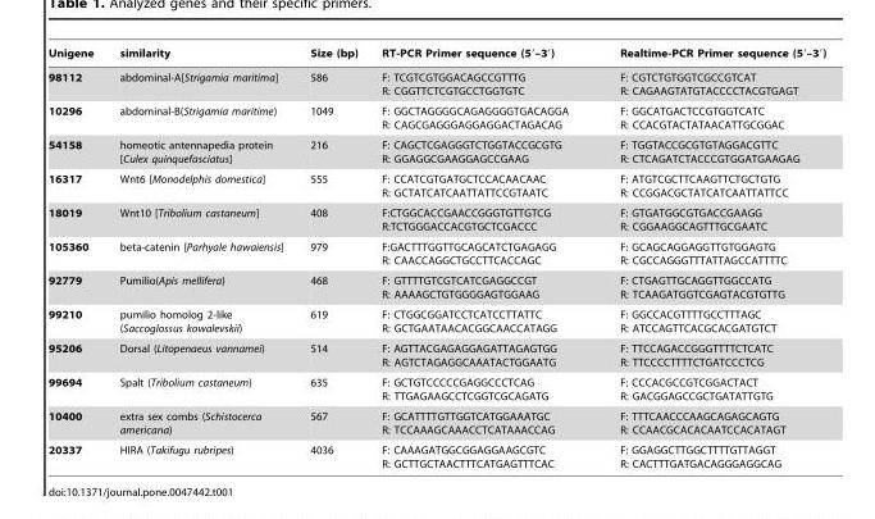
<table><thead><tr><td>Unigene</td><td>similarity</td><td>Size (bp)</td><td>RT-PCR Primer sequence (5′–3′)</td><td>Realtime-PCR Primer sequence (5′–3′)</td></tr></thead><tbody><tr><td>98112</td><td>abdominal-A[Strigamia maritima]</td><td>586</td><td>F: TCGTCGTGGACAGCCGTTTG R: CGGTTCTCGTGCCTGGTGTC</td><td>F: CGTCTGTGGTCGCCGTCAT R: CAGAAGTATGTACCCCTACGTGAGT</td></tr><tr><td>10296</td><td>abdominal-B(Strigamia maritime)</td><td>1049</td><td>F: GGCTAGGGGCAGAGGGGTGACAGGA R: CAGCGAGGGAGGAGGACTAGACAG</td><td>F: GGCATGACTCCGTGGTCATC R: CCACGTACTATAACATTGCGGAC</td></tr><tr><td>54158</td><td>homeotic antennapedia protein [Culex quinquefasciatus]</td><td>216</td><td>F: CAGCTCGAGGGTCTGGTACCGCGTG R: GGAGGCGAAGGAGCCGAAG</td><td>F: TGGTACCGCGTGTAGGACGTTC R: CTCAGATCTACCCGTGGATGAAGAG</td></tr><tr><td>16317</td><td>Wnt6 [Monodelphis domestica]</td><td>555</td><td>F: CCATCGTGATGCTCCACAACAAC R: GCTATCATCAATTATTCCGTAATC</td><td>F: ATGTCGCTTCAAGTTCTGCTGTG R: CCGGACGCTATCATCAATTATTCC</td></tr><tr><td>18019</td><td>Wnt10 [Tribolium castaneum]</td><td>408</td><td>F:CTGGCACCGAACCGGGTGTTGTCG R:TCTGGGACCACGTGCTCGACCC</td><td>F: GTGATGGCGTGACCGAAGG R: CGGAAGGCAGTTTGCGAATC</td></tr><tr><td>105360</td><td>beta-catenin [Parhyale hawaiensis]</td><td>979</td><td>F:GACTTTGGTTGCAGCATCTGAGAGG R: CAACCAGGCTGCCTTCACCAGC</td><td>F: GCAGCAGGAGGTTGTGGAGTG R: CGCCAGGGTTTATTAGCCATTTTC</td></tr><tr><td>92779</td><td>Pumilio(Apis mellifera)</td><td>468</td><td>F: GTTTTGTCGTCATCGAGGCCGT R: AAAAGCTGTGGGGAGTGGAAG</td><td>F: CTGAGTTGCAGGTTGGCCATG R: TCAAGATGGTCGAGTACGTGTTG</td></tr><tr><td>99210</td><td>pumilio homolog 2-like (Saccoglossus kowalevskii)</td><td>619</td><td>F: CTGGCGGATCCTCATCCTTATTC R: GCTGAATAACACGGCAACCATAGG</td><td>F: GGCCACGTTTTGCCTTTAGC R: ATCCAGTTCACGCACGATGTCT</td></tr><tr><td>95206</td><td>Dorsal (Litopenaeus vannamei)</td><td>514</td><td>F: AGTTACGAGAGGAGATTAGAGTGG R: AGTCTAGAGGCAAATACTGGAATG</td><td>F: TTCCAGACCGGGTTTTCTCATC R: TTCCCCTTTTCTGATCCCTCG</td></tr><tr><td>99694</td><td>Spalt (Tribolium castaneum)</td><td>635</td><td>F: GCTGTCCCCCGAGGCCCTCAG R: TTGAGAAGCCTCGGTCGCAGATG</td><td>F: CCCACGCCGTCGGACTACT R: GACGGAGCCGCTGATATTGTG</td></tr><tr><td>10400</td><td>extra sex combs (Schistocerca americana)</td><td>567</td><td>F: GCATTTTGTTGGTCATGGAAATGC R: TCCAAAGCAAACCTCATAAACCAG</td><td>F: TTTCAACCCAAGCAGAGCAGTG R: CCAACGCACACAATCCACATAGT</td></tr><tr><td>20337</td><td>HIRA (Takifugu rubripes)</td><td>4036</td><td>F: CAAAGATGGCGGAGGAAGCGTC R: GCTTGCTAACTTTCATGAGTTTCAC</td><td>F: GGAGGCTTGGCTTTTGTTAGGT R: CACTTTGATGACAGGGAGGCAG</td></tr></tbody></table>